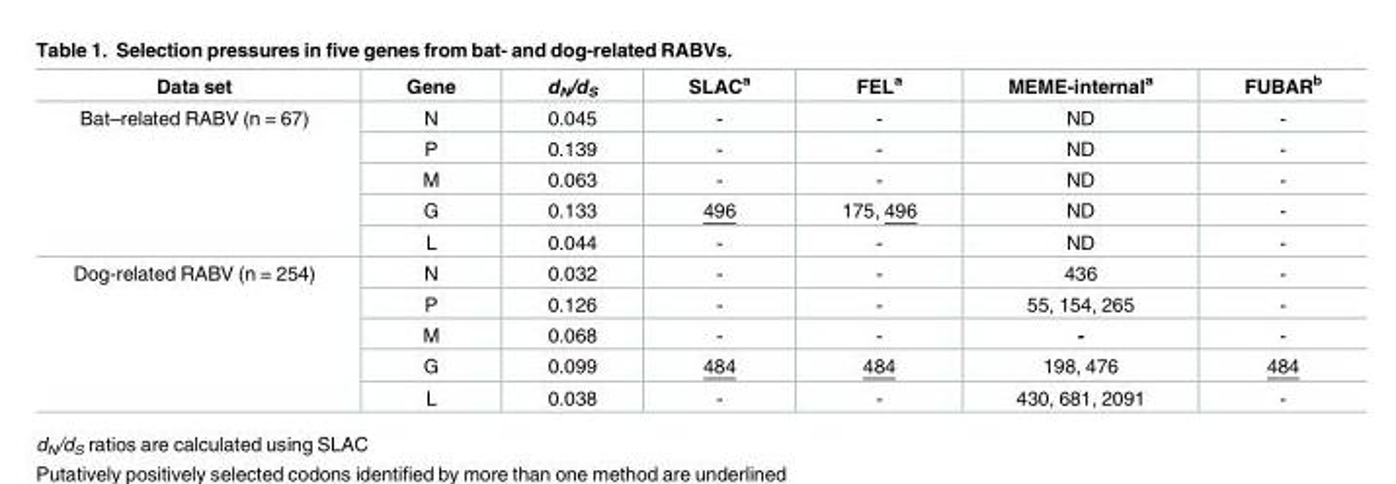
<table><thead><tr><td>Data set</td><td>Gene</td><td>d<sub>N</sub>/d<sub>S</sub></td><td>SLAC<sup>a</sup></td><td>FEL<sup>a</sup></td><td>MEME-internal<sup>a</sup></td><td>FUBAR<sup>b</sup></td></tr></thead><tbody><tr><td rowspan="5">Bat–related RABV (n = 67)</td><td>N</td><td>0.045</td><td>-</td><td>-</td><td>ND</td><td>-</td></tr><tr><td>P</td><td>0.139</td><td>-</td><td>-</td><td>ND</td><td>-</td></tr><tr><td>M</td><td>0.063</td><td>-</td><td>-</td><td>ND</td><td>-</td></tr><tr><td>G</td><td>0.133</td><td>496</td><td>175, 496</td><td>ND</td><td>-</td></tr><tr><td>L</td><td>0.044</td><td>-</td><td>-</td><td>ND</td><td>-</td></tr><tr><td rowspan="5">Dog-related RABV (n = 254)</td><td>N</td><td>0.032</td><td>-</td><td>-</td><td>436</td><td>-</td></tr><tr><td>P</td><td>0.126</td><td>-</td><td>-</td><td>55, 154, 265</td><td>-</td></tr><tr><td>M</td><td>0.068</td><td>-</td><td>-</td><td>-</td><td>-</td></tr><tr><td>G</td><td>0.099</td><td>484</td><td>484</td><td>198, 476</td><td>484</td></tr><tr><td>L</td><td>0.038</td><td>-</td><td>-</td><td>430, 681, 2091</td><td>-</td></tr></tbody></table>